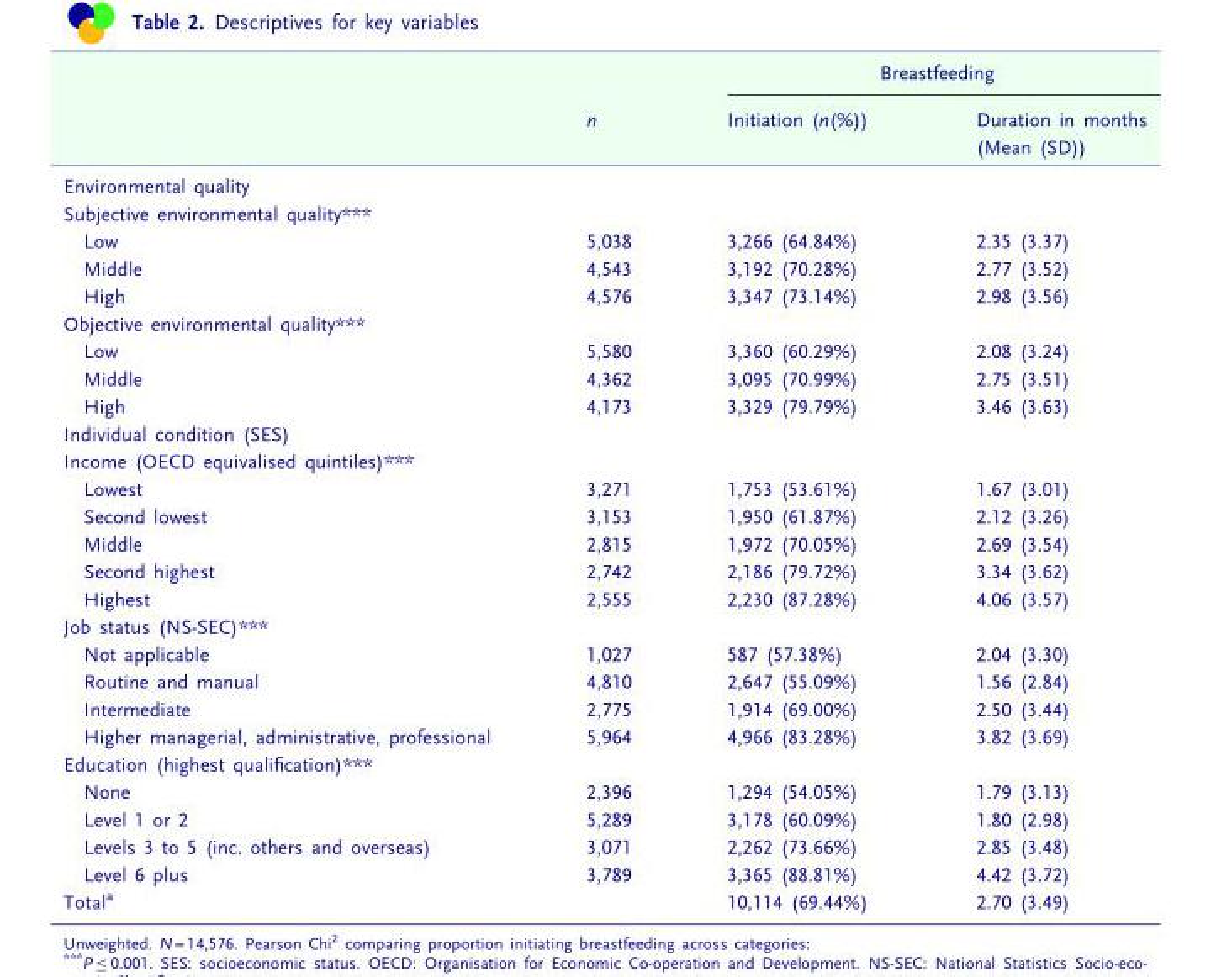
<table><thead><tr><td rowspan="2"></td><td rowspan="2">n</td><td colspan="2">Breastfeeding</td></tr><tr><td>Initiation (n(%))</td><td>Duration in months (Mean (SD))</td></tr></thead><tbody><tr><td colspan="4">Environmental quality</td></tr><tr><td colspan="4">Subjective environmental quality***</td></tr><tr><td>Low</td><td>5,038</td><td>3,266 (64.84%)</td><td>2.35 (3.37)</td></tr><tr><td>Middle</td><td>4,543</td><td>3,192 (70.28%)</td><td>2.77 (3.52)</td></tr><tr><td>High</td><td>4,576</td><td>3,347 (73.14%)</td><td>2.98 (3.56)</td></tr><tr><td colspan="4">Objective environmental quality***</td></tr><tr><td>Low</td><td>5,580</td><td>3,360 (60.29%)</td><td>2.08 (3.24)</td></tr><tr><td>Middle</td><td>4,362</td><td>3,095 (70.99%)</td><td>2.75 (3.51)</td></tr><tr><td>High</td><td>4,173</td><td>3,329 (79.79%)</td><td>3.46 (3.63)</td></tr><tr><td colspan="4">Individual condition (SES)</td></tr><tr><td colspan="4">Income (OECD equivalised quintiles)***</td></tr><tr><td>Lowest</td><td>3,271</td><td>1,753 (53.61%)</td><td>1.67 (3.01)</td></tr><tr><td>Second lowest</td><td>3,153</td><td>1,950 (61.87%)</td><td>2.12 (3.26)</td></tr><tr><td>Middle</td><td>2,815</td><td>1,972 (70.05%)</td><td>2.69 (3.54)</td></tr><tr><td>Second highest</td><td>2,742</td><td>2,186 (79.72%)</td><td>3.34 (3.62)</td></tr><tr><td>Highest</td><td>2,555</td><td>2,230 (87.28%)</td><td>4.06 (3.57)</td></tr><tr><td colspan="4">Job status (NS-SEC)***</td></tr><tr><td>Not applicable</td><td>1,027</td><td>587 (57.38%)</td><td>2.04 (3.30)</td></tr><tr><td>Routine and manual</td><td>4,810</td><td>2,647 (55.09%)</td><td>1.56 (2.84)</td></tr><tr><td>Intermediate</td><td>2,775</td><td>1,914 (69.00%)</td><td>2.50 (3.44)</td></tr><tr><td>Higher managerial, administrative, professional</td><td>5,964</td><td>4,966 (83.28%)</td><td>3.82 (3.69)</td></tr><tr><td colspan="4">Education (highest qualification)***</td></tr><tr><td>None</td><td>2,396</td><td>1,294 (54.05%)</td><td>1.79 (3.13)</td></tr><tr><td>Level 1 or 2</td><td>5,289</td><td>3,178 (60.09%)</td><td>1.80 (2.98)</td></tr><tr><td>Levels 3 to 5 (inc. others and overseas)</td><td>3,071</td><td>2,262 (73.66%)</td><td>2.85 (3.48)</td></tr><tr><td>Level 6 plus</td><td>3,789</td><td>3,365 (88.81%)</td><td>4.42 (3.72)</td></tr><tr><td>Total<sup>a</sup></td><td></td><td>10,114 (69.44%)</td><td>2.70 (3.49)</td></tr></tbody></table>